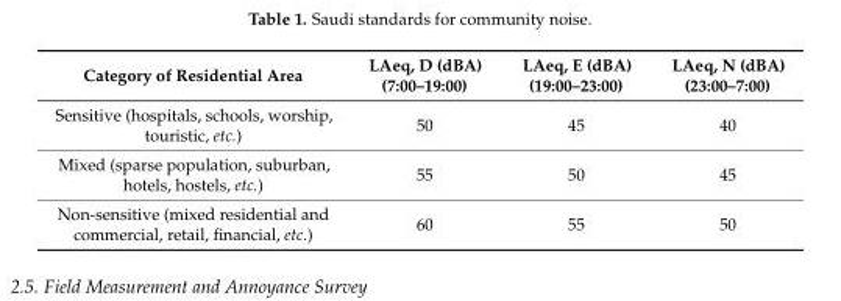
<table><thead><tr><td>Category of Residential Area</td><td>LAeq, D (dBA) (7:00–19:00)</td><td>LAeq, E (dBA) (19:00–23:00)</td><td>LAeq, N (dBA) (23:00–7:00)</td></tr></thead><tbody><tr><td>Sensitive (hospitals, schools, worship, touristic, etc.)</td><td>50</td><td>45</td><td>40</td></tr><tr><td>Mixed (sparse population, suburban, hotels, hostels, etc.)</td><td>55</td><td>50</td><td>45</td></tr><tr><td>Non-sensitive (mixed residential and commercial, retail, financial, etc.)</td><td>60</td><td>55</td><td>50</td></tr></tbody></table>